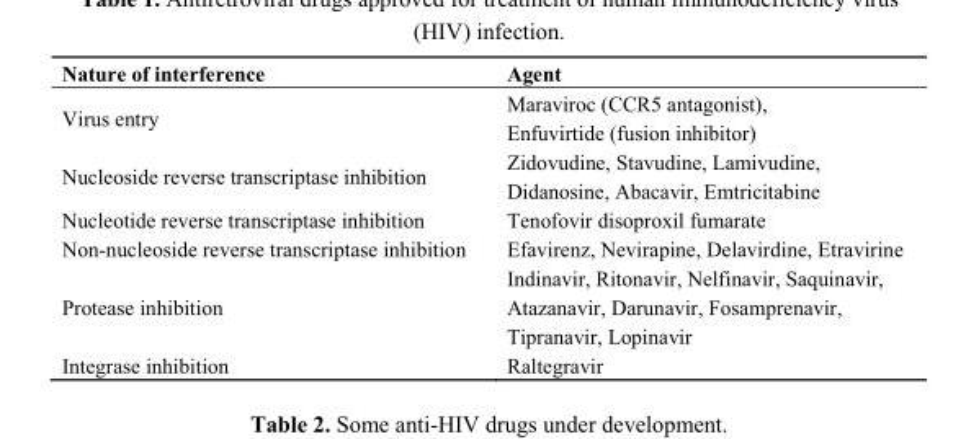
<table><thead><tr><td>Nature of interference</td><td>Agent</td></tr></thead><tbody><tr><td>Virus entry</td><td>Maraviroc (CCR5 antagonist), Enfuvirtide (fusion inhibitor)</td></tr><tr><td>Nucleoside reverse transcriptase inhibition</td><td>Zidovudine, Stavudine, Lamivudine, Didanosine, Abacavir, Emtricitabine</td></tr><tr><td>Nucleotide reverse transcriptase inhibition</td><td>Tenofovir disoproxil fumarate</td></tr><tr><td>Non-nucleoside reverse transcriptase inhibition</td><td>Efavirenz, Nevirapine, Delavirdine, Etravirine</td></tr><tr><td>Protease inhibition</td><td>Indinavir, Ritonavir, Nelfinavir, Saquinavir, Atazanavir, Darunavir, Fosamprenavir, Tipranavir, Lopinavir</td></tr><tr><td>Integrase inhibition</td><td>Raltegravir</td></tr></tbody></table>